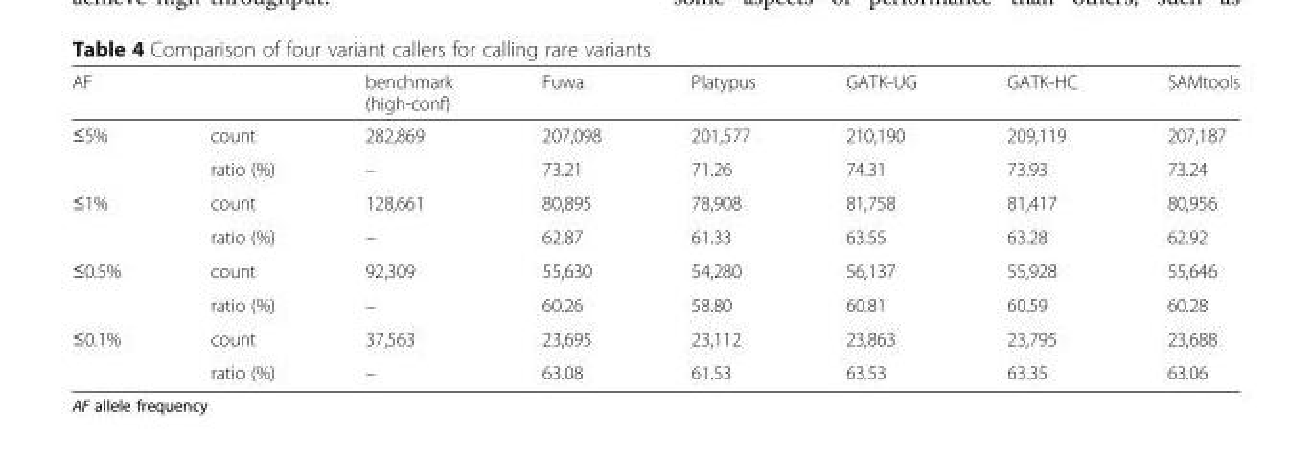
<table><thead><tr><td>AF</td><td></td><td>benchmark (high-conf)</td><td>Fuwa</td><td>Platypus</td><td>GATK-UG</td><td>GATK-HC</td><td>SAMtools</td></tr></thead><tbody><tr><td rowspan="2">≤5%</td><td>count</td><td>282,869</td><td>207,098</td><td>201,577</td><td>210,190</td><td>209,119</td><td>207,187</td></tr><tr><td>ratio (%)</td><td>–</td><td>73.21</td><td>71.26</td><td>74.31</td><td>73.93</td><td>73.24</td></tr><tr><td rowspan="2">≤1%</td><td>count</td><td>128,661</td><td>80,895</td><td>78,908</td><td>81,758</td><td>81,417</td><td>80,956</td></tr><tr><td>ratio (%)</td><td>–</td><td>62.87</td><td>61.33</td><td>63.55</td><td>63.28</td><td>62.92</td></tr><tr><td rowspan="2">≤0.5%</td><td>count</td><td>92,309</td><td>55,630</td><td>54,280</td><td>56,137</td><td>55,928</td><td>55,646</td></tr><tr><td>ratio (%)</td><td>–</td><td>60.26</td><td>58.80</td><td>60.81</td><td>60.59</td><td>60.28</td></tr><tr><td rowspan="2">≤0.1%</td><td>count</td><td>37,563</td><td>23,695</td><td>23,112</td><td>23,863</td><td>23,795</td><td>23,688</td></tr><tr><td>ratio (%)</td><td>–</td><td>63.08</td><td>61.53</td><td>63.53</td><td>63.35</td><td>63.06</td></tr></tbody></table>